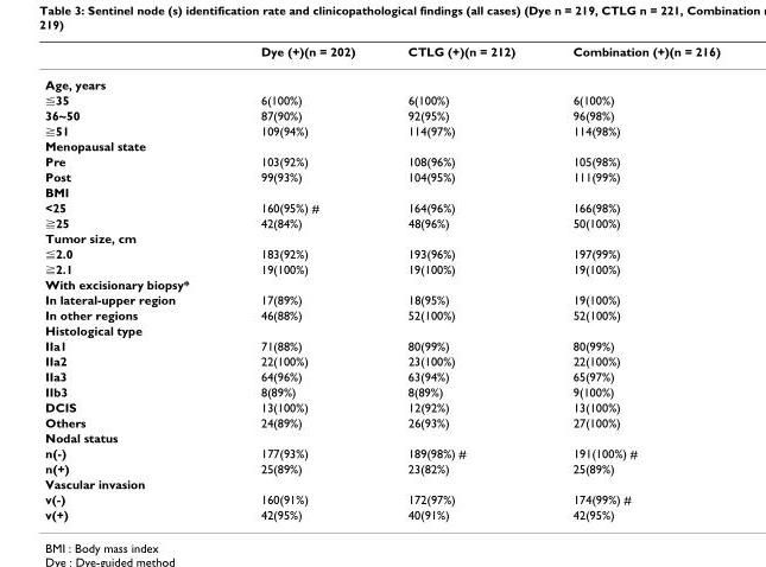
<table><thead><tr><td></td><td>Dye (+)(n = 202)</td><td>CTLG (+)(n = 212)</td><td>Combination (+)(n = 216)</td></tr></thead><tbody><tr><td colspan="4">Age, years</td></tr><tr><td>≦35</td><td>6(100%)</td><td>6(100%)</td><td>6(100%)</td></tr><tr><td>36~50</td><td>87(90%)</td><td>92(95%)</td><td>96(98%)</td></tr><tr><td>≧51</td><td>109(94%)</td><td>114(97%)</td><td>114(98%)</td></tr><tr><td colspan="4">Menopausal state</td></tr><tr><td>Pre</td><td>103(92%)</td><td>108(96%)</td><td>105(98%)</td></tr><tr><td>Post</td><td>99(93%)</td><td>104(95%)</td><td>111(99%)</td></tr><tr><td colspan="4">BMI</td></tr><tr><td>&lt;25</td><td>160(95%) #</td><td>164(96%)</td><td>166(98%)</td></tr><tr><td>≧25</td><td>42(84%)</td><td>48(96%)</td><td>50(100%)</td></tr><tr><td colspan="4">Tumor size, cm</td></tr><tr><td>≦2.0</td><td>183(92%)</td><td>193(96%)</td><td>197(99%)</td></tr><tr><td>≧2.1</td><td>19(100%)</td><td>19(100%)</td><td>19(100%)</td></tr><tr><td colspan="4">With excisionary biopsy*</td></tr><tr><td>In lateral-upper region</td><td>17(89%)</td><td>18(95%)</td><td>19(100%)</td></tr><tr><td>In other regions</td><td>46(88%)</td><td>52(100%)</td><td>52(100%)</td></tr><tr><td colspan="4">Histological type</td></tr><tr><td>IIa1</td><td>71(88%)</td><td>80(99%)</td><td>80(99%)</td></tr><tr><td>IIa2</td><td>22(100%)</td><td>23(100%)</td><td>22(100%)</td></tr><tr><td>IIa3</td><td>64(96%)</td><td>63(94%)</td><td>65(97%)</td></tr><tr><td>IIb3</td><td>8(89%)</td><td>8(89%)</td><td>9(100%)</td></tr><tr><td>DCIS</td><td>13(100%)</td><td>12(92%)</td><td>13(100%)</td></tr><tr><td>Others</td><td>24(89%)</td><td>26(93%)</td><td>27(100%)</td></tr><tr><td colspan="4">Nodal status</td></tr><tr><td>n(-)</td><td>177(93%)</td><td>189(98%) #</td><td>191(100%) #</td></tr><tr><td>n(+)</td><td>25(89%)</td><td>23(82%)</td><td>25(89%)</td></tr><tr><td colspan="4">Vascular invasion</td></tr><tr><td>v(-)</td><td>160(91%)</td><td>172(97%)</td><td>174(99%) #</td></tr><tr><td>v(+)</td><td>42(95%)</td><td>40(91%)</td><td>42(95%)</td></tr></tbody></table>